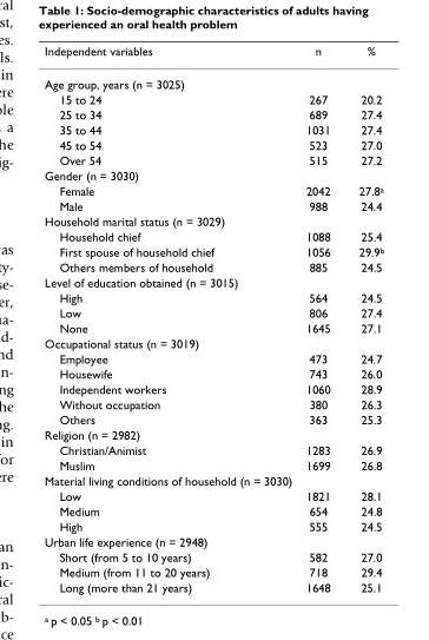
<table><thead><tr><td>Independent variables</td><td>n</td><td>%</td></tr></thead><tbody><tr><td colspan="3">Age group, years (n = 3025)</td></tr><tr><td>15 to 24</td><td>267</td><td>20.2</td></tr><tr><td>25 to 34</td><td>689</td><td>27.4</td></tr><tr><td>35 to 44</td><td>1031</td><td>27.4</td></tr><tr><td>45 to 54</td><td>523</td><td>27.0</td></tr><tr><td>Over 54</td><td>515</td><td>27.2</td></tr><tr><td colspan="3">Gender (n = 3030)</td></tr><tr><td>Female</td><td>2042</td><td>27.8a</td></tr><tr><td>Male</td><td>988</td><td>24.4</td></tr><tr><td colspan="3">Household marital status (n = 3029)</td></tr><tr><td>Household chief</td><td>1088</td><td>25.4</td></tr><tr><td>First spouse of household chief</td><td>1056</td><td>29.9b</td></tr><tr><td>Others members of household</td><td>885</td><td>24.5</td></tr><tr><td colspan="3">Level of education obtained (n = 3015)</td></tr><tr><td>High</td><td>564</td><td>24.5</td></tr><tr><td>Low</td><td>806</td><td>27.4</td></tr><tr><td>None</td><td>1645</td><td>27.1</td></tr><tr><td colspan="3">Occupational status (n = 3019)</td></tr><tr><td>Employee</td><td>473</td><td>24.7</td></tr><tr><td>Housewife</td><td>743</td><td>26.0</td></tr><tr><td>Independent workers</td><td>1060</td><td>28.9</td></tr><tr><td>Without occupation</td><td>380</td><td>26.3</td></tr><tr><td>Others</td><td>363</td><td>25.3</td></tr><tr><td colspan="3">Religion (n = 2982)</td></tr><tr><td>Christian/Animist</td><td>1283</td><td>26.9</td></tr><tr><td>Muslim</td><td>1699</td><td>26.8</td></tr><tr><td colspan="3">Material living conditions of household (n = 3030)</td></tr><tr><td>Low</td><td>1821</td><td>28.1</td></tr><tr><td>Medium</td><td>654</td><td>24.8</td></tr><tr><td>High</td><td>555</td><td>24.5</td></tr><tr><td colspan="3">Urban life experience (n = 2948)</td></tr><tr><td>Short (from 5 to 10 years)</td><td>582</td><td>27.0</td></tr><tr><td>Medium (from 11 to 20 years)</td><td>718</td><td>29.4</td></tr><tr><td>Long (more than 21 years)</td><td>1648</td><td>25.1</td></tr></tbody></table>